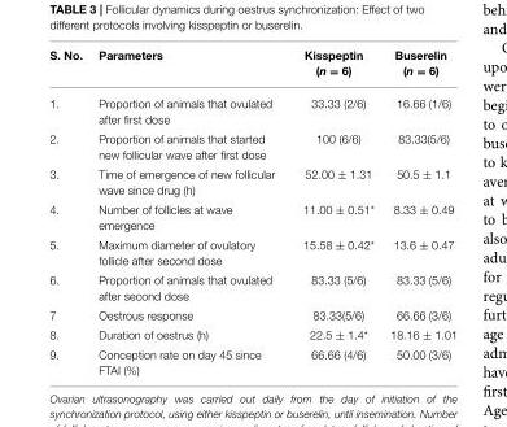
<table><thead><tr><td>S. No.</td><td>Parameters</td><td>Kisspeptin (n = 6)</td><td>Buserelin (n = 6)</td></tr></thead><tbody><tr><td>1.</td><td>Proportion of animals that ovulated after first dose</td><td>33.33 (2/6)</td><td>16.66 (1/6)</td></tr><tr><td>2.</td><td>Proportion of animals that started new follicular wave after first dose</td><td>100 (6/6)</td><td>83.33(5/6)</td></tr><tr><td>3.</td><td>Time of emergence of new follicular wave since drug (h)</td><td>52.00 ± 1.31</td><td>50.5 ± 1.1</td></tr><tr><td>4.</td><td>Number of follicles at wave emergence</td><td>11.00 ± 0.51*</td><td>8.33 ± 0.49</td></tr><tr><td>5.</td><td>Maximum diameter of ovulatory follicle after second dose</td><td>15.58 ± 0.42*</td><td>13.6 ± 0.47</td></tr><tr><td>6.</td><td>Proportion of animals that ovulated after second dose</td><td>83.33 (5/6)</td><td>83.33 (5/6)</td></tr><tr><td>7</td><td>Oestrous response</td><td>83.33(5/6)</td><td>66.66 (3/6)</td></tr><tr><td>8.</td><td>Duration of oestrus (h)</td><td>22.5 ± 1.4*</td><td>18.16 ± 1.01</td></tr><tr><td>9.</td><td>Conception rate on day 45 since FTAI (%)</td><td>66.66 (4/6)</td><td>50.00 (3/6)</td></tr></tbody></table>